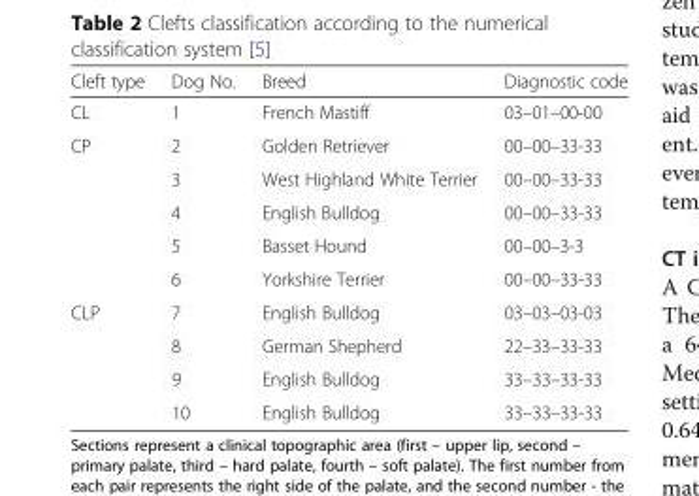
<table><thead><tr><td>Cleft type</td><td>Dog No.</td><td>Breed</td><td>Diagnostic code</td></tr></thead><tbody><tr><td>CL</td><td>1</td><td>French Mastiff</td><td>03–01–00-00</td></tr><tr><td rowspan="5">CP</td><td>2</td><td>Golden Retriever</td><td>00–00–33-33</td></tr><tr><td>3</td><td>West Highland White Terrier</td><td>00–00–33-33</td></tr><tr><td>4</td><td>English Bulldog</td><td>00–00–33-33</td></tr><tr><td>5</td><td>Basset Hound</td><td>00–00–3-3</td></tr><tr><td>6</td><td>Yorkshire Terrier</td><td>00–00–33-33</td></tr><tr><td rowspan="4">CLP</td><td>7</td><td>English Bulldog</td><td>03–03–03-03</td></tr><tr><td>8</td><td>German Shepherd</td><td>22–33–33-33</td></tr><tr><td>9</td><td>English Bulldog</td><td>33–33–33-33</td></tr><tr><td>10</td><td>English Bulldog</td><td>33–33–33-33</td></tr></tbody></table>